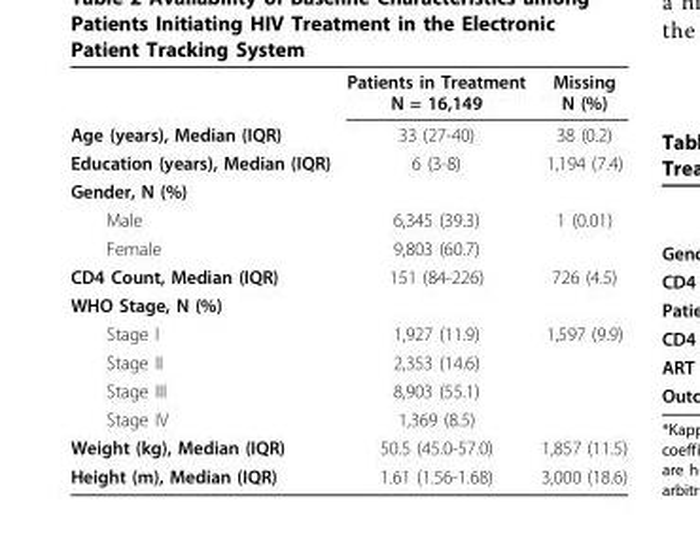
<table><thead><tr><td></td><td>Patients in Treatment N = 16,149</td><td>Missing N (%)</td></tr></thead><tbody><tr><td>Age (years), Median (IQR)</td><td>33 (27-40)</td><td>38 (0.2)</td></tr><tr><td>Education (years), Median (IQR)</td><td>6 (3-8)</td><td>1,194 (7.4)</td></tr><tr><td colspan="3">Gender, N (%)</td></tr><tr><td>Male</td><td>6,345 (39.3)</td><td>1 (0.01)</td></tr><tr><td>Female</td><td>9,803 (60.7)</td><td></td></tr><tr><td>CD4 Count, Median (IQR)</td><td>151 (84-226)</td><td>726 (4.5)</td></tr><tr><td colspan="3">WHO Stage, N (%)</td></tr><tr><td>Stage I</td><td>1,927 (11.9)</td><td>1,597 (9.9)</td></tr><tr><td>Stage II</td><td>2,353 (14.6)</td><td></td></tr><tr><td>Stage III</td><td>8,903 (55.1)</td><td></td></tr><tr><td>Stage IV</td><td>1,369 (8.5)</td><td></td></tr><tr><td>Weight (kg), Median (IQR)</td><td>50.5 (45.0-57.0)</td><td>1,857 (11.5)</td></tr><tr><td>Height (m), Median (IQR)</td><td>1.61 (1.56-1.68)</td><td>3,000 (18.6)</td></tr></tbody></table>